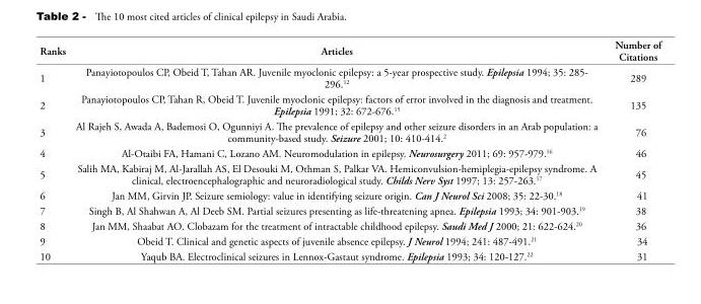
<table><thead><tr><td>Ranks</td><td>Articles</td><td>Number of Citations</td></tr></thead><tbody><tr><td>1</td><td>Panayiotopoulos CP, Obeid T, Tahan AR. Juvenile myoclonic epilepsy: a 5-year prospective study. Epilepsia 1994; 35: 285- 296.<sup>12</sup></td><td>289</td></tr><tr><td>2</td><td>Panayiotopoulos CP, Tahan R, Obeid T. Juvenile myoclonic epilepsy: factors of error involved in the diagnosis and treatment. Epilepsia 1991; 32: 672-676.<sup>15</sup></td><td>135</td></tr><tr><td>3</td><td>Al Rajeh S, Awada A, Bademosi O, Ogunniyi A. The prevalence of epilepsy and other seizure disorders in an Arab population: a community-based study. Seizure 2001; 10: 410-414.<sup>2</sup></td><td>76</td></tr><tr><td>4</td><td>Al-Otaibi FA, Hamani C, Lozano AM. Neuromodulation in epilepsy. Neurosurgery 2011; 69: 957-979.<sup>16</sup></td><td>46</td></tr><tr><td>5</td><td>Salih MA, Kabiraj M, Al-Jarallah AS, El Desouki M, Othman S, Palkar VA. Hemiconvulsion-hemiplegia-epilepsy syndrome. A clinical, electroencephalographic and neuroradiological study. Childs Nerv Syst 1997; 13: 257-263.<sup>17</sup></td><td>45</td></tr><tr><td>6</td><td>Jan MM, Girvin JP. Seizure semiology: value in identifying seizure origin. Can J Neurol Sci 2008; 35: 22-30.<sup>18</sup></td><td>41</td></tr><tr><td>7</td><td>Singh B, Al Shahwan A, Al Deeb SM. Partial seizures presenting as life-threatening apnea. Epilepsia 1993; 34: 901-903.<sup>19</sup></td><td>38</td></tr><tr><td>8</td><td>Jan MM, Shaabat AO. Clobazam for the treatment of intractable childhood epilepsy. Saudi Med J 2000; 21: 622-624.<sup>20</sup></td><td>36</td></tr><tr><td>9</td><td>Obeid T. Clinical and genetic aspects of juvenile absence epilepsy. J Neurol 1994; 241: 487-491.<sup>21</sup></td><td>34</td></tr><tr><td>10</td><td>Yaqub BA. Electroclinical seizures in Lennox-Gastaut syndrome. Epilepsia 1993; 34: 120-127.<sup>22</sup></td><td>31</td></tr></tbody></table>